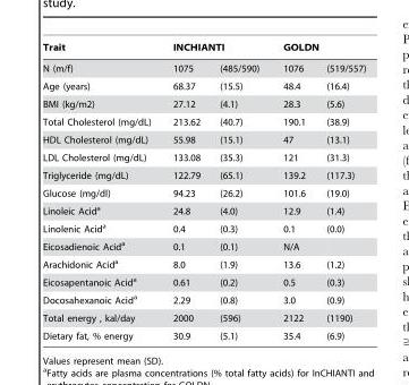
<table><thead><tr><td rowspan="2">Trait N (m/f)</td><td colspan="2">INCHIANTI</td><td colspan="2">GOLDN</td></tr><tr><td>1075</td><td>(485/590)</td><td>1076</td><td>(519/557)</td></tr></thead><tbody><tr><td>Age (years)</td><td>68.37</td><td>(15.5)</td><td>48.4</td><td>(16.4)</td></tr><tr><td>BMI (kg/m2)</td><td>27.12</td><td>(4.1)</td><td>28.3</td><td>(5.6)</td></tr><tr><td>Total Cholesterol (mg/dL)</td><td>213.62</td><td>(40.7)</td><td>190.1</td><td>(38.9)</td></tr><tr><td>HDL Cholesterol (mg/dL)</td><td>55.98</td><td>(15.1)</td><td>47</td><td>(13.1)</td></tr><tr><td>LDL Cholesterol (mg/dL)</td><td>133.08</td><td>(35.3)</td><td>121</td><td>(31.3)</td></tr><tr><td>Triglyceride (mg/dL)</td><td>122.79</td><td>(65.1)</td><td>139.2</td><td>(117.3)</td></tr><tr><td>Glucose (mg/dl)</td><td>94.23</td><td>(26.2)</td><td>101.6</td><td>(19.0)</td></tr><tr><td>Linoleic Acid<sup>a</sup></td><td>24.8</td><td>(4.0)</td><td>12.9</td><td>(1.4)</td></tr><tr><td>Linolenic Acid<sup>a</sup></td><td>0.4</td><td>(0.3)</td><td>0.1</td><td>(0.0)</td></tr><tr><td>Eicosadienoic Acid<sup>a</sup></td><td>0.1</td><td>(0.1)</td><td>N/A</td><td></td></tr><tr><td>Arachidonic Acid<sup>a</sup></td><td>8.0</td><td>(1.9)</td><td>13.6</td><td>(1.2)</td></tr><tr><td>Eicosapentanoic Acid<sup>a</sup></td><td>0.61</td><td>(0.2)</td><td>0.5</td><td>(0.3)</td></tr><tr><td>Docosahexanoic Acid<sup>a</sup></td><td>2.29</td><td>(0.8)</td><td>3.0</td><td>(0.9)</td></tr><tr><td>Total energy , kal/day</td><td>2000</td><td>(596)</td><td>2122</td><td>(1190)</td></tr><tr><td>Dietary fat, % energy</td><td>30.9</td><td>(5.1)</td><td>35.4</td><td>(6.9)</td></tr></tbody></table>